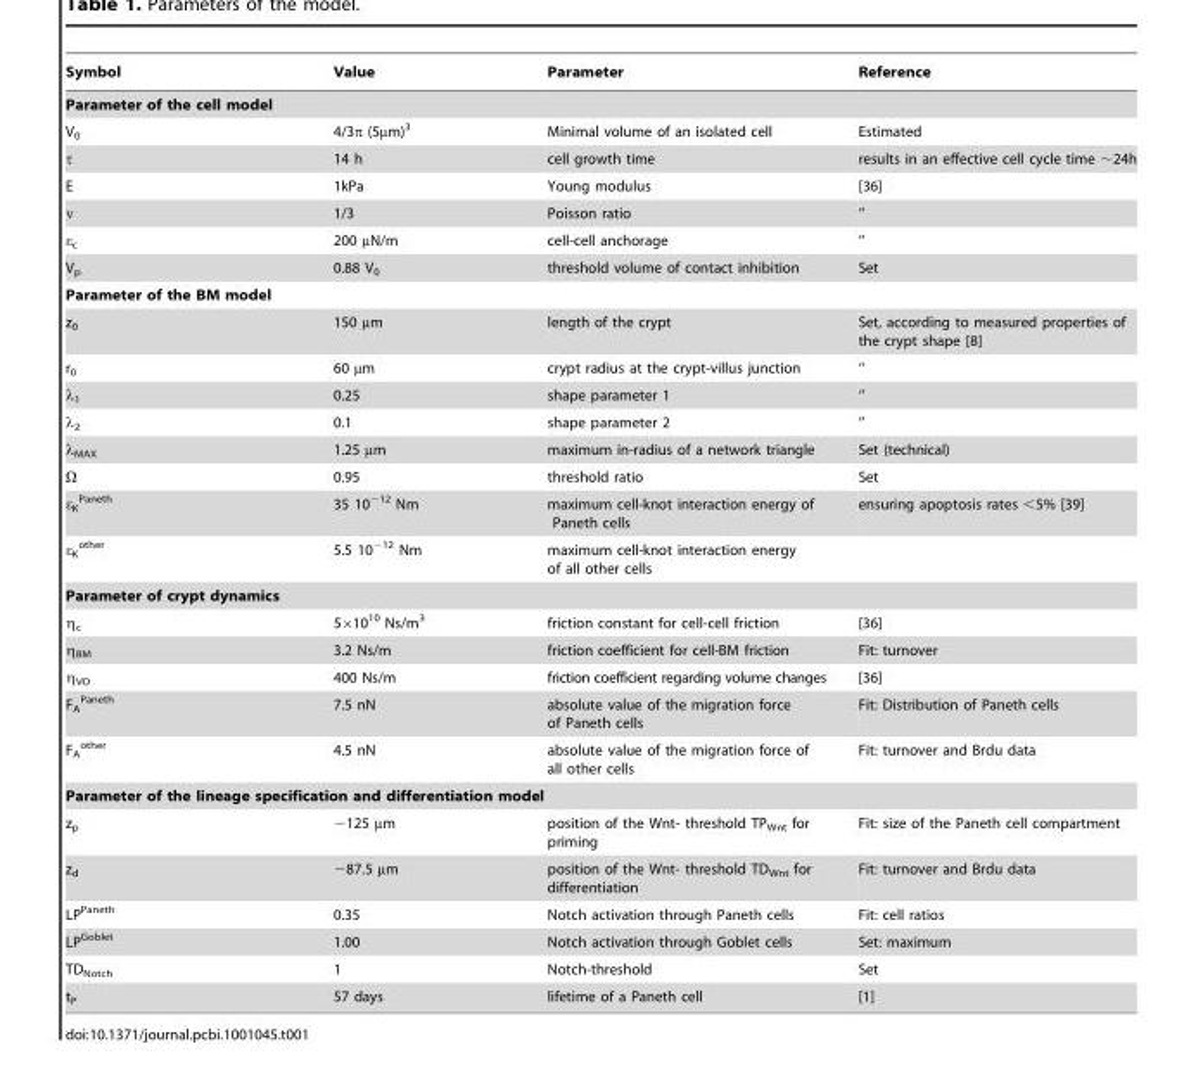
<table><thead><tr><td>Symbol</td><td>Value</td><td>Parameter</td><td>Reference</td></tr></thead><tbody><tr><td colspan="4">Parameter of the cell model</td></tr><tr><td>V<sub>0</sub></td><td>4/3π (5µm)<sup>3</sup></td><td>Minimal volume of an isolated cell</td><td>Estimated</td></tr><tr><td>τ</td><td>14 h</td><td>cell growth time</td><td>results in an effective cell cycle time ∼24h</td></tr><tr><td>E</td><td>1kPa</td><td>Young modulus</td><td>[36]</td></tr><tr><td>ν</td><td>1/3</td><td>Poisson ratio</td><td>‘’</td></tr><tr><td>ε<sub>c</sub></td><td>200 µN/m</td><td>cell-cell anchorage</td><td>‘’</td></tr><tr><td>V<sub>p</sub></td><td>0.88 V<sub>0</sub></td><td>threshold volume of contact inhibition</td><td>Set</td></tr><tr><td colspan="4">Parameter of the BM model</td></tr><tr><td>z<sub>0</sub></td><td>150 µm</td><td>length of the crypt</td><td>Set, according to measured properties of the crypt shape [8]</td></tr><tr><td>r<sub>0</sub></td><td>60 µm</td><td>crypt radius at the crypt-villus junction</td><td>‘’</td></tr><tr><td>λ<sub>1</sub></td><td>0.25</td><td>shape parameter 1</td><td>‘’</td></tr><tr><td>λ<sub>2</sub></td><td>0.1</td><td>shape parameter 2</td><td>‘’</td></tr><tr><td>λ<sub>MAX</sub></td><td>1.25 µm</td><td>maximum in-radius of a network triangle</td><td>Set (technical)</td></tr><tr><td>Ω</td><td>0.95</td><td>threshold ratio</td><td>Set</td></tr><tr><td>ε<sub>K</sub> <sup>Paneth</sup></td><td>35 10<sup>−12</sup> Nm</td><td>maximum cell-knot interaction energy of Paneth cells</td><td>ensuring apoptosis rates &lt;5% [39]</td></tr><tr><td>ε<sub>K</sub> <sup>other</sup></td><td>5.5 10<sup>−12</sup> Nm</td><td>maximum cell-knot interaction energy of all other cells</td><td></td></tr><tr><td colspan="4">Parameter of crypt dynamics</td></tr><tr><td>η<sub>c</sub></td><td>5×10<sup>10</sup> Ns/m<sup>3</sup></td><td>friction constant for cell-cell friction</td><td>[36]</td></tr><tr><td>η<sub>BM</sub></td><td>3.2 Ns/m</td><td>friction coefficient for cell-BM friction</td><td>Fit: turnover</td></tr><tr><td>η<sub>VO</sub></td><td>400 Ns/m</td><td>friction coefficient regarding volume changes</td><td>[36]</td></tr><tr><td>F<sub>A</sub> <sup>Paneth</sup></td><td>7.5 nN</td><td>absolute value of the migration force of Paneth cells</td><td>Fit: Distribution of Paneth cells</td></tr><tr><td>F<sub>A</sub> <sup>other</sup></td><td>4.5 nN</td><td>absolute value of the migration force of all other cells</td><td>Fit: turnover and Brdu data</td></tr><tr><td colspan="4">Parameter of the lineage specification and differentiation model</td></tr><tr><td>z<sub>p</sub></td><td>−125 µm</td><td>position of the Wnt- threshold TP<sub>Wnt</sub> for priming</td><td>Fit: size of the Paneth cell compartment</td></tr><tr><td>z<sub>d</sub></td><td>−87.5 µm</td><td>position of the Wnt- threshold TD<sub>Wnt</sub> for differentiation</td><td>Fit: turnover and Brdu data</td></tr><tr><td>LP<sup>Paneth</sup></td><td>0.35</td><td>Notch activation through Paneth cells</td><td>Fit: cell ratios</td></tr><tr><td>LP<sup>Goblet</sup></td><td>1.00</td><td>Notch activation through Goblet cells</td><td>Set: maximum</td></tr><tr><td>TD<sub>Notch</sub></td><td>1</td><td>Notch-threshold</td><td>Set</td></tr><tr><td>t<sub>P</sub></td><td>57 days</td><td>lifetime of a Paneth cell</td><td>[1]</td></tr></tbody></table>